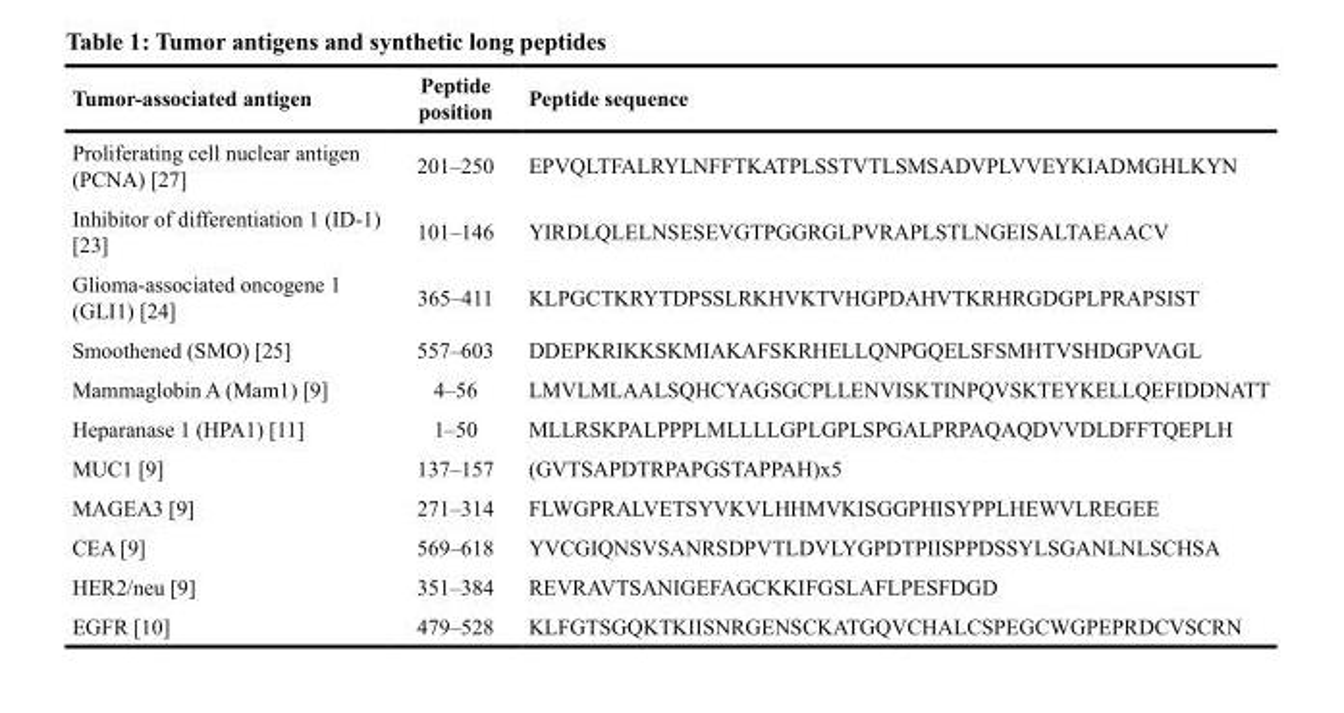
<table><thead><tr><td>Tumor-associated antigen</td><td>Peptide position</td><td>Peptide sequence</td></tr></thead><tbody><tr><td>Proliferating cell nuclear antigen (PCNA) [27]</td><td>201–250</td><td>EPVQLTFALRYLNFFTKATPLSSTVTLSMSADVPLVVEYKIADMGHLKYN</td></tr><tr><td>Inhibitor of differentiation 1 (ID-1) [23]</td><td>101–146</td><td>YIRDLQLELNSESEVGTPGGRGLPVRAPLSTLNGEISALTAEAACV</td></tr><tr><td>Glioma-associated oncogene 1 (GLI1) [24]</td><td>365–411</td><td>KLPGCTKRYTDPSSLRKHVKTVHGPDAHVTKRHRGDGPLPRAPSIST</td></tr><tr><td>Smoothened (SMO) [25]</td><td>557–603</td><td>DDEPKRIKKSKMIAKAFSKRHELLQNPGQELSFSMHTVSHDGPVAGL</td></tr><tr><td>Mammaglobin A (Mam1) [9]</td><td>4–56</td><td>LMVLMLAALSQHCYAGSGCPLLENVISKTINPQVSKTEYKELLQEFIDDNATT</td></tr><tr><td>Heparanase 1 (HPA1) [11]</td><td>1–50</td><td>MLLRSKPALPPPLMLLLLGPLGPLSPGALPRPAQAQDVVDLDFFTQEPLH</td></tr><tr><td>MUC1 [9]</td><td>137–157</td><td>(GVTSAPDTRPAPGSTAPPAH)x5</td></tr><tr><td>MAGEA3 [9]</td><td>271–314</td><td>FLWGPRALVETSYVKVLHHMVKISGGPHISYPPLHEWVLREGEE</td></tr><tr><td>CEA [9]</td><td>569–618</td><td>YVCGIQNSVSANRSDPVTLDVLYGPDTPIISPPDSSYLSGANLNLSCHSA</td></tr><tr><td>HER2/neu [9]</td><td>351–384</td><td>REVRAVTSANIGEFAGCKKIFGSLAFLPESFDGD</td></tr><tr><td>EGFR [10]</td><td>479–528</td><td>KLFGTSGQKTKIISNRGENSCKATGQVCHALCSPEGCWGPEPRDCVSCRN</td></tr></tbody></table>